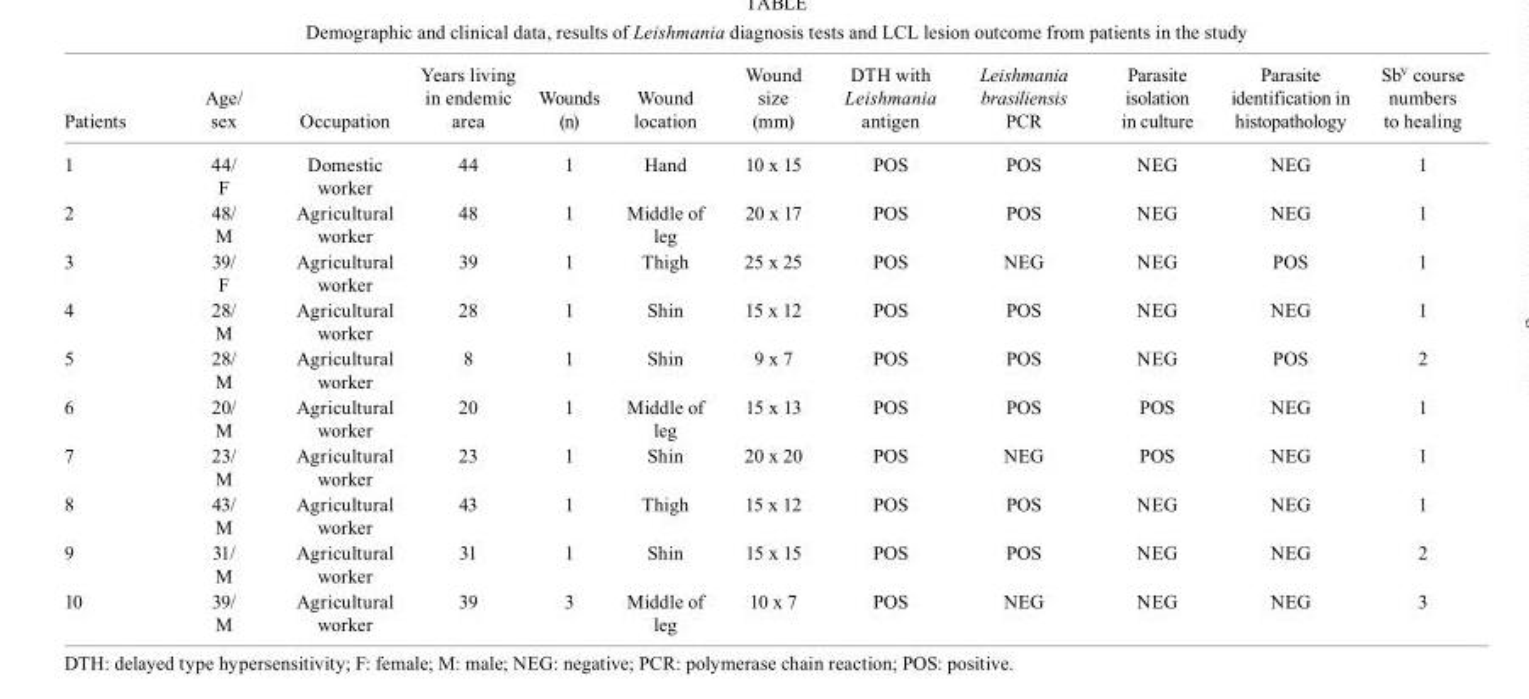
<table><thead><tr><td>Patients</td><td>Age/ sex</td><td>Occupation</td><td>Years living in endemic area</td><td>Wounds (n)</td><td>Wound location</td><td>Wound size (mm)</td><td>DTH with Leishmania antigen</td><td>Leishmania brasiliensis PCR</td><td>Parasite isolation in culture</td><td>Parasite identification in histopathology</td><td>Sb<sup>V</sup> course numbers to healing</td></tr></thead><tbody><tr><td>1</td><td>44/ F</td><td>Domestic worker</td><td>44</td><td>1</td><td>Hand</td><td>10 x 15</td><td>POS</td><td>POS</td><td>NEG</td><td>NEG</td><td>1</td></tr><tr><td>2</td><td>48/ M</td><td>Agricultural worker</td><td>48</td><td>1</td><td>Middle of leg</td><td>20 x 17</td><td>POS</td><td>POS</td><td>NEG</td><td>NEG</td><td>1</td></tr><tr><td>3</td><td>39/ F</td><td>Agricultural worker</td><td>39</td><td>1</td><td>Thigh</td><td>25 x 25</td><td>POS</td><td>NEG</td><td>NEG</td><td>POS</td><td>1</td></tr><tr><td>4</td><td>28/ M</td><td>Agricultural worker</td><td>28</td><td>1</td><td>Shin</td><td>15 x 12</td><td>POS</td><td>POS</td><td>NEG</td><td>NEG</td><td>1</td></tr><tr><td>5</td><td>28/ M</td><td>Agricultural worker</td><td>8</td><td>1</td><td>Shin</td><td>9 x 7</td><td>POS</td><td>POS</td><td>NEG</td><td>POS</td><td>2</td></tr><tr><td>6</td><td>20/ M</td><td>Agricultural worker</td><td>20</td><td>1</td><td>Middle of leg</td><td>15 x 13</td><td>POS</td><td>POS</td><td>POS</td><td>NEG</td><td>1</td></tr><tr><td>7</td><td>23/ M</td><td>Agricultural worker</td><td>23</td><td>1</td><td>Shin</td><td>20 x 20</td><td>POS</td><td>NEG</td><td>POS</td><td>NEG</td><td>1</td></tr><tr><td>8</td><td>43/ M</td><td>Agricultural worker</td><td>43</td><td>1</td><td>Thigh</td><td>15 x 12</td><td>POS</td><td>POS</td><td>NEG</td><td>NEG</td><td>1</td></tr><tr><td>9</td><td>31/ M</td><td>Agricultural worker</td><td>31</td><td>1</td><td>Shin</td><td>15 x 15</td><td>POS</td><td>POS</td><td>NEG</td><td>NEG</td><td>2</td></tr><tr><td>10</td><td>39/ M</td><td>Agricultural worker</td><td>39</td><td>3</td><td>Middle of leg</td><td>10 x 7</td><td>POS</td><td>NEG</td><td>NEG</td><td>NEG</td><td>3</td></tr></tbody></table>